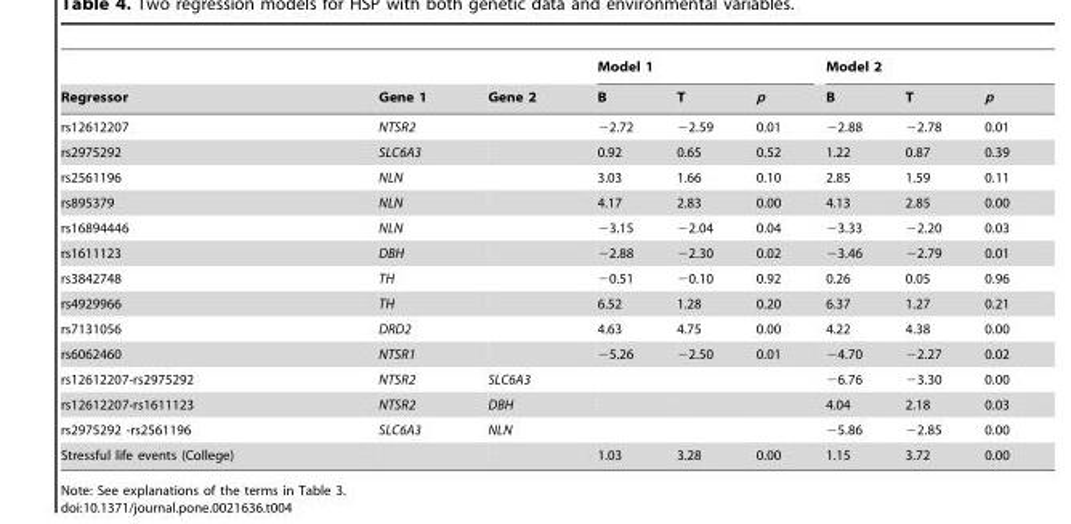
<table><thead><tr><td rowspan="2">Regressor</td><td rowspan="2">Gene 1</td><td rowspan="2">Gene 2</td><td colspan="3">Model 1</td><td colspan="3">Model 2</td></tr><tr><td>B</td><td>T</td><td>p</td><td>B</td><td>T</td><td>p</td></tr></thead><tbody><tr><td>rs12612207</td><td>NTSR2</td><td></td><td>−2.72</td><td>−2.59</td><td>0.01</td><td>−2.88</td><td>−2.78</td><td>0.01</td></tr><tr><td>rs2975292</td><td>SLC6A3</td><td></td><td>0.92</td><td>0.65</td><td>0.52</td><td>1.22</td><td>0.87</td><td>0.39</td></tr><tr><td>rs2561196</td><td>NLN</td><td></td><td>3.03</td><td>1.66</td><td>0.10</td><td>2.85</td><td>1.59</td><td>0.11</td></tr><tr><td>rs895379</td><td>NLN</td><td></td><td>4.17</td><td>2.83</td><td>0.00</td><td>4.13</td><td>2.85</td><td>0.00</td></tr><tr><td>rs16894446</td><td>NLN</td><td></td><td>−3.15</td><td>−2.04</td><td>0.04</td><td>−3.33</td><td>−2.20</td><td>0.03</td></tr><tr><td>rs1611123</td><td>DBH</td><td></td><td>−2.88</td><td>−2.30</td><td>0.02</td><td>−3.46</td><td>−2.79</td><td>0.01</td></tr><tr><td>rs3842748</td><td>TH</td><td></td><td>−0.51</td><td>−0.10</td><td>0.92</td><td>0.26</td><td>0.05</td><td>0.96</td></tr><tr><td>rs4929966</td><td>TH</td><td></td><td>6.52</td><td>1.28</td><td>0.20</td><td>6.37</td><td>1.27</td><td>0.21</td></tr><tr><td>rs7131056</td><td>DRD2</td><td></td><td>4.63</td><td>4.75</td><td>0.00</td><td>4.22</td><td>4.38</td><td>0.00</td></tr><tr><td>rs6062460</td><td>NTSR1</td><td></td><td>−5.26</td><td>−2.50</td><td>0.01</td><td>−4.70</td><td>−2.27</td><td>0.02</td></tr><tr><td>rs12612207-rs2975292</td><td>NTSR2</td><td>SLC6A3</td><td></td><td></td><td></td><td>−6.76</td><td>−3.30</td><td>0.00</td></tr><tr><td>rs12612207-rs1611123</td><td>NTSR2</td><td>DBH</td><td></td><td></td><td></td><td>4.04</td><td>2.18</td><td>0.03</td></tr><tr><td>rs2975292 -rs2561196</td><td>SLC6A3</td><td>NLN</td><td></td><td></td><td></td><td>−5.86</td><td>−2.85</td><td>0.00</td></tr><tr><td>Stressful life events (College)</td><td></td><td></td><td>1.03</td><td>3.28</td><td>0.00</td><td>1.15</td><td>3.72</td><td>0.00</td></tr></tbody></table>